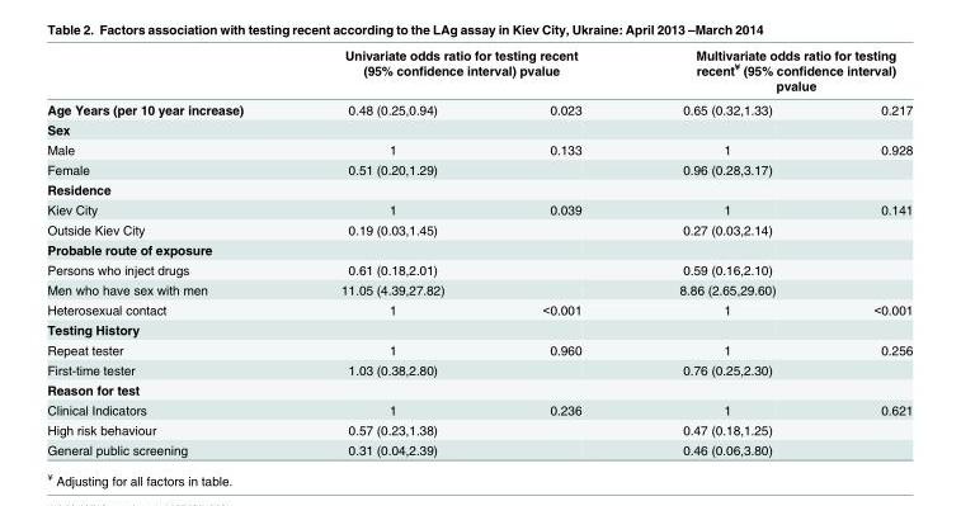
<table><thead><tr><td rowspan="2">Age Years (per 10 year increase)</td><td colspan="2">Univariate odds ratio for testing recent (95% confidence interval) pvalue</td><td colspan="2">Multivariate odds ratio for testing recent<sup>¥</sup> (95% confidence interval) pvalue</td></tr><tr><td>0.48 (0.25,0.94)</td><td>0.023</td><td>0.65 (0.32,1.33)</td><td>0.217</td></tr></thead><tbody><tr><td colspan="5">Sex</td></tr><tr><td>Male</td><td>1</td><td>0.133</td><td>1</td><td>0.928</td></tr><tr><td>Female</td><td>0.51 (0.20,1.29)</td><td></td><td>0.96 (0.28,3.17)</td><td></td></tr><tr><td colspan="5">Residence</td></tr><tr><td>Kiev City</td><td>1</td><td>0.039</td><td>1</td><td>0.141</td></tr><tr><td>Outside Kiev City</td><td>0.19 (0.03,1.45)</td><td></td><td>0.27 (0.03,2.14)</td><td></td></tr><tr><td colspan="5">Probable route of exposure</td></tr><tr><td>Persons who inject drugs</td><td>0.61 (0.18,2.01)</td><td></td><td>0.59 (0.16,2.10)</td><td></td></tr><tr><td>Men who have sex with men</td><td>11.05 (4.39,27.82)</td><td></td><td>8.86 (2.65,29.60)</td><td></td></tr><tr><td>Heterosexual contact</td><td>1</td><td>&lt;0.001</td><td>1</td><td>&lt;0.001</td></tr><tr><td colspan="5">Testing History</td></tr><tr><td>Repeat tester</td><td>1</td><td>0.960</td><td>1</td><td>0.256</td></tr><tr><td>First-time tester</td><td>1.03 (0.38,2.80)</td><td></td><td>0.76 (0.25,2.30)</td><td></td></tr><tr><td colspan="5">Reason for test</td></tr><tr><td>Clinical Indicators</td><td>1</td><td>0.236</td><td>1</td><td>0.621</td></tr><tr><td>High risk behaviour</td><td>0.57 (0.23,1.38)</td><td></td><td>0.47 (0.18,1.25)</td><td></td></tr><tr><td>General public screening</td><td>0.31 (0.04,2.39)</td><td></td><td>0.46 (0.06,3.80)</td><td></td></tr></tbody></table>